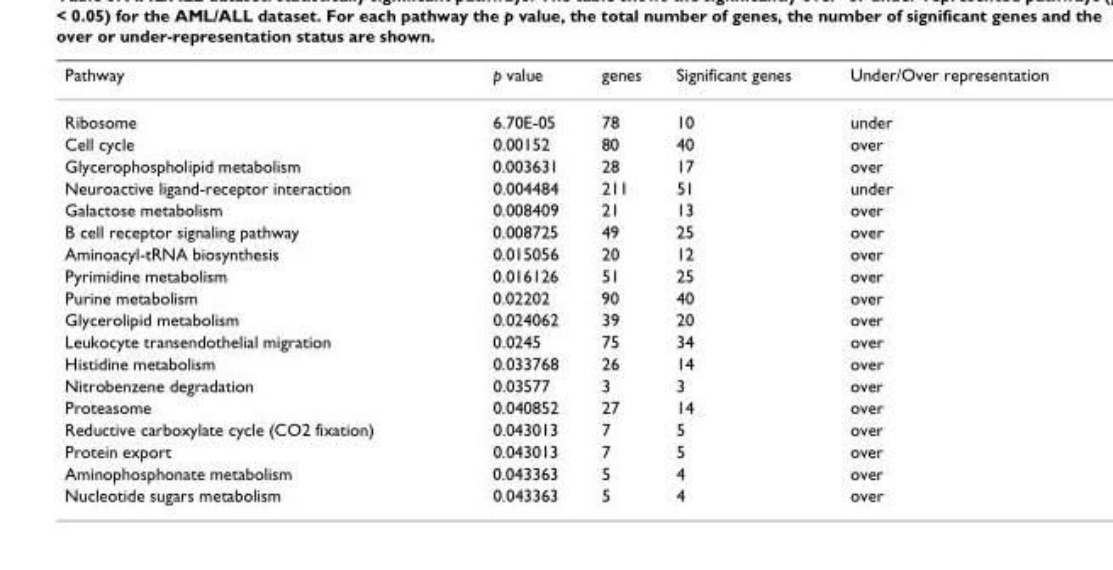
<table><thead><tr><td>Pathway</td><td>p value</td><td>genes</td><td>Significant genes</td><td>Under/Over representation</td></tr></thead><tbody><tr><td>Ribosome</td><td>6.70E-05</td><td>78</td><td>10</td><td>under</td></tr><tr><td>Cell cycle</td><td>0.00152</td><td>80</td><td>40</td><td>over</td></tr><tr><td>Glycerophospholipid metabolism</td><td>0.003631</td><td>28</td><td>17</td><td>over</td></tr><tr><td>Neuroactive ligand-receptor interaction</td><td>0.004484</td><td>211</td><td>51</td><td>under</td></tr><tr><td>Galactose metabolism</td><td>0.008409</td><td>21</td><td>13</td><td>over</td></tr><tr><td>B cell receptor signaling pathway</td><td>0.008725</td><td>49</td><td>25</td><td>over</td></tr><tr><td>Aminoacyl-tRNA biosynthesis</td><td>0.015056</td><td>20</td><td>12</td><td>over</td></tr><tr><td>Pyrimidine metabolism</td><td>0.016126</td><td>51</td><td>25</td><td>over</td></tr><tr><td>Purine metabolism</td><td>0.02202</td><td>90</td><td>40</td><td>over</td></tr><tr><td>Glycerolipid metabolism</td><td>0.024062</td><td>39</td><td>20</td><td>over</td></tr><tr><td>Leukocyte transendothelial migration</td><td>0.0245</td><td>75</td><td>34</td><td>over</td></tr><tr><td>Histidine metabolism</td><td>0.033768</td><td>26</td><td>14</td><td>over</td></tr><tr><td>Nitrobenzene degradation</td><td>0.03577</td><td>3</td><td>3</td><td>over</td></tr><tr><td>Proteasome</td><td>0.040852</td><td>27</td><td>14</td><td>over</td></tr><tr><td>Reductive carboxylate cycle (CO2 fixation)</td><td>0.043013</td><td>7</td><td>5</td><td>over</td></tr><tr><td>Protein export</td><td>0.043013</td><td>7</td><td>5</td><td>over</td></tr><tr><td>Aminophosphonate metabolism</td><td>0.043363</td><td>5</td><td>4</td><td>over</td></tr><tr><td>Nucleotide sugars metabolism</td><td>0.043363</td><td>5</td><td>4</td><td>over</td></tr></tbody></table>